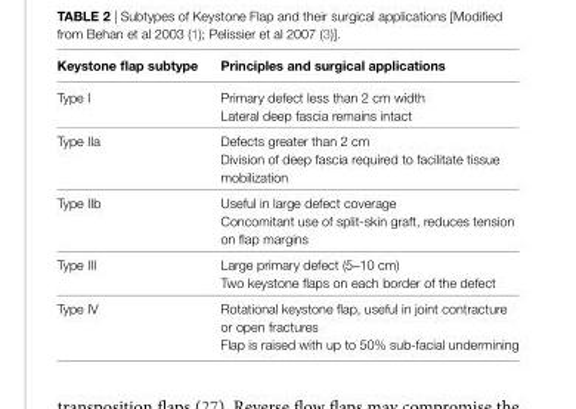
<table><thead><tr><td>Keystone flap subtype</td><td>principles and surgical applications</td></tr></thead><tbody><tr><td rowspan="2">Type I</td><td>Primary defect less than 2 cm width</td></tr><tr><td>Lateral deep fascia remains intact</td></tr><tr><td rowspan="2">Type IIa</td><td>Defects greater than 2 cm</td></tr><tr><td>Division of deep fascia required to facilitate tissue mobilization</td></tr><tr><td rowspan="2">Type IIb</td><td>Useful in large defect coverage</td></tr><tr><td>Concomitant use of split-skin graft, reduces tension on flap margins</td></tr><tr><td rowspan="2">Type III</td><td>Large primary defect (5–10 cm)</td></tr><tr><td>Two keystone flaps on each border of the defect</td></tr><tr><td rowspan="2">Type IV</td><td>Rotational keystone flap, useful in joint contracture or open fractures</td></tr><tr><td>Flap is raised with up to 50% sub-facial undermining</td></tr></tbody></table>